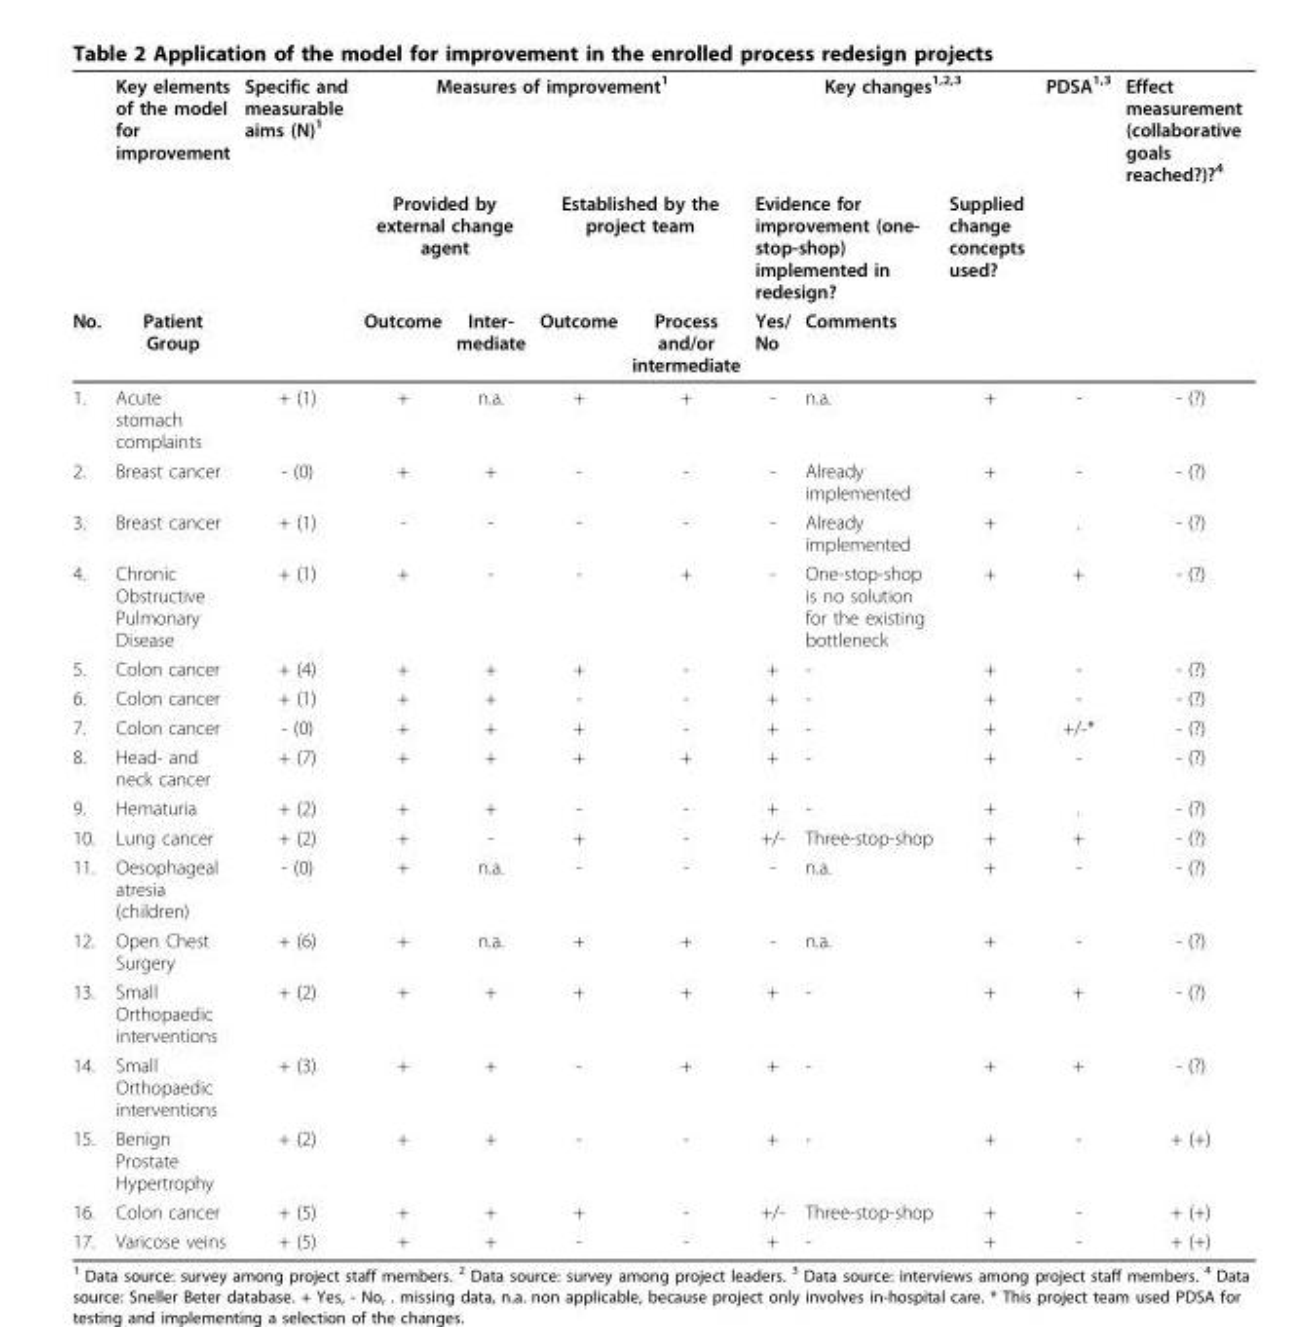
<table><thead><tr><td rowspan="3">No.</td><td rowspan="3">Key elements of the model for improvement Patient Group</td><td rowspan="3">Specific and measurable aims (N)<sup>1</sup></td><td colspan="4">Measures of improvement<sup>1</sup></td><td colspan="3">Key changes<sup>1,2,3</sup></td><td rowspan="3">PDSA<sup>1,3</sup></td><td rowspan="3">Effect measurement (collaborative goals reached?)?<sup>4</sup></td></tr><tr><td colspan="2">Provided by external change agent</td><td colspan="2">Established by the project team</td><td colspan="2">Evidence for improvement (one- stop-shop) implemented in redesign?</td><td rowspan="2">Supplied change concepts used?</td></tr><tr><td>Outcome</td><td>Inter- mediate</td><td>Outcome</td><td>Process and/or intermediate</td><td>Yes/ No</td><td>Comments</td></tr></thead><tbody><tr><td>1.</td><td>Acute stomach complaints</td><td>+ (1)</td><td>+</td><td>n.a.</td><td>+</td><td>+</td><td>-</td><td>n.a.</td><td>+</td><td>-</td><td>- (?)</td></tr><tr><td>2.</td><td>Breast cancer</td><td>- (0)</td><td>+</td><td>+</td><td>-</td><td>-</td><td>-</td><td>Already implemented</td><td>+</td><td>-</td><td>- (?)</td></tr><tr><td>3.</td><td>Breast cancer</td><td>+ (1)</td><td>-</td><td>-</td><td>-</td><td>-</td><td>-</td><td>Already implemented</td><td>+</td><td>.</td><td>- (?)</td></tr><tr><td>4.</td><td>Chronic Obstructive Pulmonary Disease</td><td>+ (1)</td><td>+</td><td>-</td><td>-</td><td>+</td><td>-</td><td>One-stop-shop is no solution for the existing bottleneck</td><td>+</td><td>+</td><td>- (?)</td></tr><tr><td>5.</td><td>Colon cancer</td><td>+ (4)</td><td>+</td><td>+</td><td>+</td><td>-</td><td>+</td><td>-</td><td>+</td><td>-</td><td>- (?)</td></tr><tr><td>6.</td><td>Colon cancer</td><td>+ (1)</td><td>+</td><td>+</td><td>-</td><td>-</td><td>+</td><td>-</td><td>+</td><td>-</td><td>- (?)</td></tr><tr><td>7.</td><td>Colon cancer</td><td>- (0)</td><td>+</td><td>+</td><td>+</td><td>-</td><td>+</td><td>-</td><td>+</td><td>+/-*</td><td>- (?)</td></tr><tr><td>8.</td><td>Head- and neck cancer</td><td>+ (7)</td><td>+</td><td>+</td><td>+</td><td>+</td><td>+</td><td>-</td><td>+</td><td>-</td><td>- (?)</td></tr><tr><td>9.</td><td>Hematuria</td><td>+ (2)</td><td>+</td><td>+</td><td>-</td><td>-</td><td>+</td><td>-</td><td>+</td><td>.</td><td>- (?)</td></tr><tr><td>10.</td><td>Lung cancer</td><td>+ (2)</td><td>+</td><td>-</td><td>+</td><td>-</td><td>+/-</td><td>Three-stop-shop</td><td>+</td><td>+</td><td>- (?)</td></tr><tr><td>11.</td><td>Oesophageal atresia (children)</td><td>- (0)</td><td>+</td><td>n.a.</td><td>-</td><td>-</td><td>-</td><td>n.a.</td><td>+</td><td>-</td><td>- (?)</td></tr><tr><td>12.</td><td>Open Chest Surgery</td><td>+ (6)</td><td>+</td><td>n.a.</td><td>+</td><td>+</td><td>-</td><td>n.a.</td><td>+</td><td>-</td><td>- (?)</td></tr><tr><td>13.</td><td>Small Orthopaedic interventions</td><td>+ (2)</td><td>+</td><td>+</td><td>+</td><td>+</td><td>+</td><td>-</td><td>+</td><td>+</td><td>- (?)</td></tr><tr><td>14.</td><td>Small Orthopaedic interventions</td><td>+ (3)</td><td>+</td><td>+</td><td>-</td><td>+</td><td>+</td><td>-</td><td>+</td><td>+</td><td>- (?)</td></tr><tr><td>15.</td><td>Benign Prostate Hypertrophy</td><td>+ (2)</td><td>+</td><td>+</td><td>-</td><td>-</td><td>+</td><td>-</td><td>+</td><td>-</td><td>+ (+)</td></tr><tr><td>16.</td><td>Colon cancer</td><td>+ (5)</td><td>+</td><td>+</td><td>+</td><td>-</td><td>+/-</td><td>Three-stop-shop</td><td>+</td><td>-</td><td>+ (+)</td></tr><tr><td>17.</td><td>Varicose veins</td><td>+ (5)</td><td>+</td><td>+</td><td>-</td><td>-</td><td>+</td><td>-</td><td>+</td><td>-</td><td>+ (+)</td></tr></tbody></table>